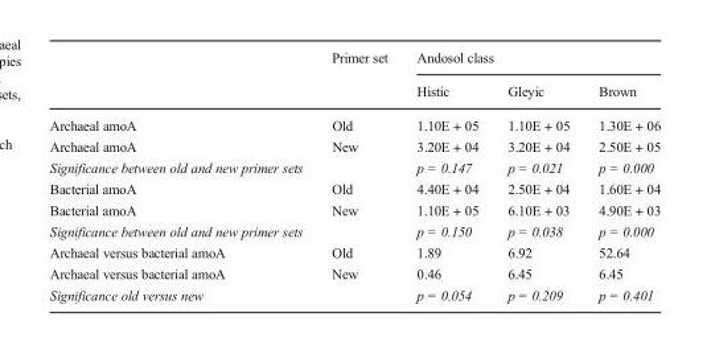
<table><thead><tr><td rowspan="2"></td><td rowspan="2">Primer set</td><td colspan="3">Andosol class</td></tr><tr><td>Histic</td><td>Gleyic</td><td>Brown</td></tr></thead><tbody><tr><td>Archaeal amoA</td><td>Old</td><td>1.10E + 05</td><td>1.10E + 05</td><td>1.30E + 06</td></tr><tr><td>Archaeal amoA</td><td>New</td><td>3.20E + 04</td><td>3.20E + 04</td><td>2.50E + 05</td></tr><tr><td>Significance between old and new primer sets</td><td></td><td>p = 0.147</td><td>p = 0.021</td><td>p = 0.000</td></tr><tr><td>Bacterial amoA</td><td>Old</td><td>4.40E + 04</td><td>2.50E + 04</td><td>1.60E + 04</td></tr><tr><td>Bacterial amoA</td><td>New</td><td>1.10E + 05</td><td>6.10E + 03</td><td>4.90E + 03</td></tr><tr><td>Significance between old and new primer sets</td><td></td><td>p = 0.150</td><td>p = 0.038</td><td>p = 0.000</td></tr><tr><td>Archaeal versus bacterial amoA</td><td>Old</td><td>1.89</td><td>6.92</td><td>52.64</td></tr><tr><td>Archaeal versus bacterial amoA</td><td>New</td><td>0.46</td><td>6.45</td><td>6.45</td></tr><tr><td>Significance old versus new</td><td></td><td>p = 0.054</td><td>p = 0.209</td><td>p = 0.401</td></tr></tbody></table>